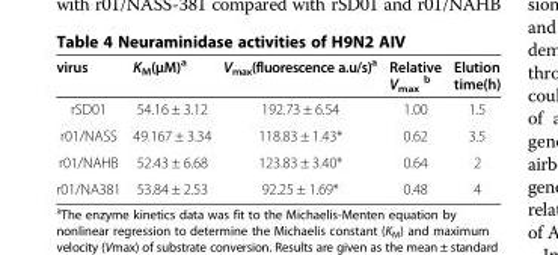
<table><thead><tr><td>virus</td><td>K<sub>M</sub>(μM)<sup>a</sup></td><td>V<sub>max</sub>(fluorescence a.u/s)<sup>a</sup></td><td>Relative V<sub>max</sub> <sup>b</sup></td><td>Elution time(h)</td></tr></thead><tbody><tr><td>rSD01</td><td>54.16 ± 3.12</td><td>192.73 ± 6.54</td><td>1.00</td><td>1.5</td></tr><tr><td>r01/NASS</td><td>49.167 ± 3.34</td><td>118.83 ± 1.43*</td><td>0.62</td><td>3.5</td></tr><tr><td>r01/NAHB</td><td>52.43 ± 6.68</td><td>123.83 ± 3.40*</td><td>0.64</td><td>2</td></tr><tr><td>r01/NA381</td><td>53.84 ± 2.53</td><td>92.25 ± 1.69*</td><td>0.48</td><td>4</td></tr></tbody></table>